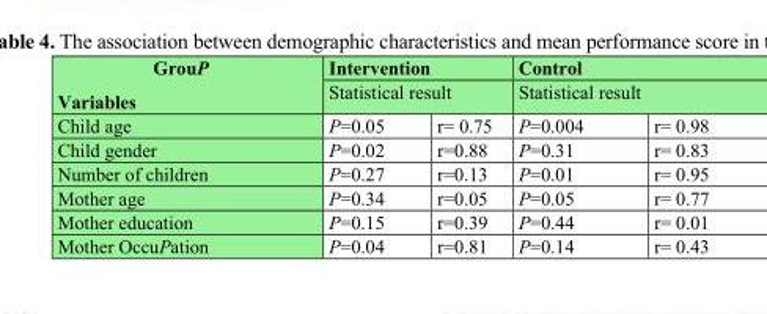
<table><thead><tr><td rowspan="3">GrouP Variables Child age</td><td rowspan="2" colspan="2">Intervention Statistical result</td><td rowspan="2" colspan="2">Control Statistical result</td></tr><tr></tr><tr><td>P=0.05</td><td>r= 0.75</td><td>P=0.004</td><td>r= 0.98</td></tr></thead><tbody><tr><td>Child gender</td><td>P=0.02</td><td>r=0.88</td><td>P=0.31</td><td>r= 0.83</td></tr><tr><td>Number of children</td><td>P=0.27</td><td>r=0.13</td><td>P=0.01</td><td>r= 0.95</td></tr><tr><td>Mother age</td><td>P=0.34</td><td>r=0.05</td><td>P=0.05</td><td>r= 0.77</td></tr><tr><td>Mother education</td><td>P=0.15</td><td>r=0.39</td><td>P=0.44</td><td>r= 0.01</td></tr><tr><td>Mother OccuPation</td><td>P=0.04</td><td>r=0.81</td><td>P=0.14</td><td>r= 0.43</td></tr></tbody></table>